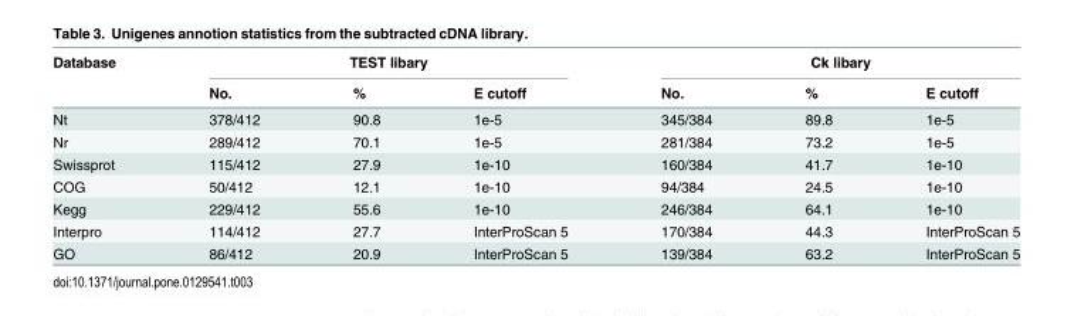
<table><thead><tr><td rowspan="2">Database</td><td colspan="3">TEST libary</td><td colspan="3">Ck libary</td></tr><tr><td>No.</td><td>%</td><td>E cutoff</td><td>No.</td><td>%</td><td>E cutoff</td></tr></thead><tbody><tr><td>Nt</td><td>378/412</td><td>90.8</td><td>1e-5</td><td>345/384</td><td>89.8</td><td>1e-5</td></tr><tr><td>Nr</td><td>289/412</td><td>70.1</td><td>1e-5</td><td>281/384</td><td>73.2</td><td>1e-5</td></tr><tr><td>Swissprot</td><td>115/412</td><td>27.9</td><td>1e-10</td><td>160/384</td><td>41.7</td><td>1e-10</td></tr><tr><td>COG</td><td>50/412</td><td>12.1</td><td>1e-10</td><td>94/384</td><td>24.5</td><td>1e-10</td></tr><tr><td>Kegg</td><td>229/412</td><td>55.6</td><td>1e-10</td><td>246/384</td><td>64.1</td><td>1e-10</td></tr><tr><td>Interpro</td><td>114/412</td><td>27.7</td><td>InterProScan 5</td><td>170/384</td><td>44.3</td><td>InterProScan 5</td></tr><tr><td>GO</td><td>86/412</td><td>20.9</td><td>InterProScan 5</td><td>139/384</td><td>63.2</td><td>InterProScan 5</td></tr></tbody></table>